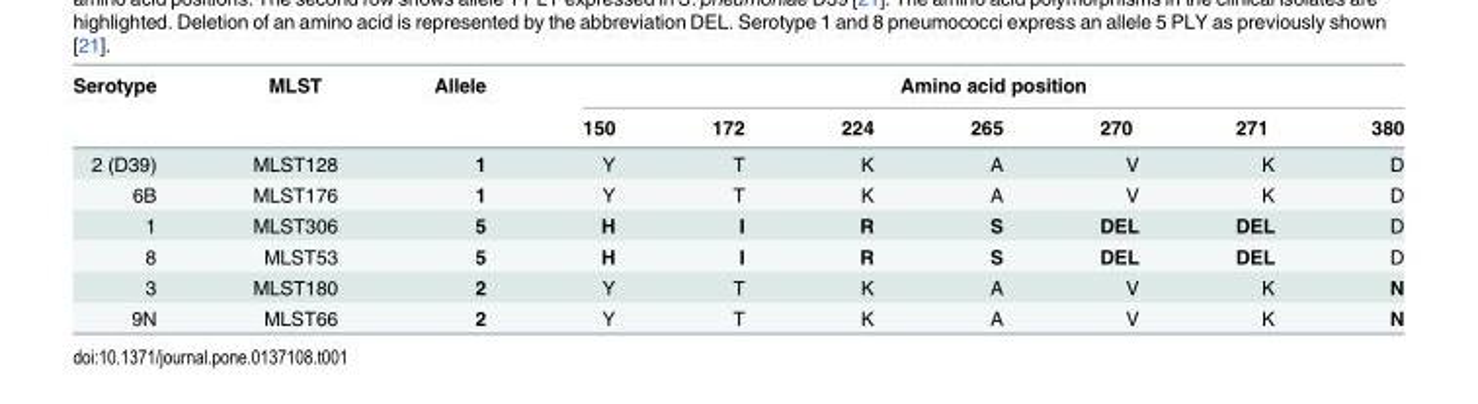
<table><thead><tr><td rowspan="2">Serotype</td><td rowspan="2">MLST</td><td rowspan="2">Allele</td><td colspan="7">Amino acid position</td></tr><tr><td>150</td><td>172</td><td>224</td><td>265</td><td>270</td><td>271</td><td>380</td></tr></thead><tbody><tr><td>2 (D39)</td><td>MLST128</td><td>1</td><td>Y</td><td>T</td><td>K</td><td>A</td><td>V</td><td>K</td><td>D</td></tr><tr><td>6B</td><td>MLST176</td><td>1</td><td>Y</td><td>T</td><td>K</td><td>A</td><td>V</td><td>K</td><td>D</td></tr><tr><td>1</td><td>MLST306</td><td>5</td><td>H</td><td>I</td><td>R</td><td>S</td><td>DEL</td><td>DEL</td><td>D</td></tr><tr><td>8</td><td>MLST53</td><td>5</td><td>H</td><td>I</td><td>R</td><td>S</td><td>DEL</td><td>DEL</td><td>D</td></tr><tr><td>3</td><td>MLST180</td><td>2</td><td>Y</td><td>T</td><td>K</td><td>A</td><td>V</td><td>K</td><td>N</td></tr><tr><td>9N</td><td>MLST66</td><td>2</td><td>Y</td><td>T</td><td>K</td><td>A</td><td>V</td><td>K</td><td>N</td></tr></tbody></table>